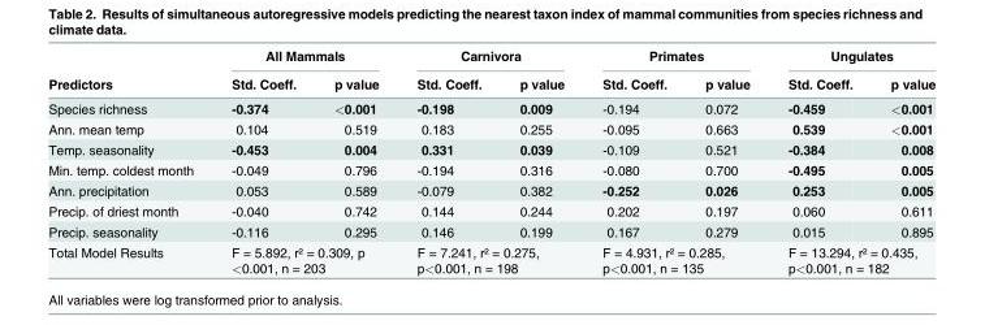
<table><thead><tr><td rowspan="2">Predictors</td><td colspan="2">All Mammals</td><td colspan="2">Carnivora</td><td colspan="2">Primates</td><td colspan="2">Ungulates</td></tr><tr><td>Std. Coeff.</td><td>p value</td><td>Std. Coeff.</td><td>p value</td><td>Std. Coeff.</td><td>p value</td><td>Std. Coeff.</td><td>p value</td></tr></thead><tbody><tr><td>Species richness</td><td>-0.374</td><td>&lt;0.001</td><td>-0.198</td><td>0.009</td><td>-0.194</td><td>0.072</td><td>-0.459</td><td>&lt;0.001</td></tr><tr><td>Ann. mean temp</td><td>0.104</td><td>0.519</td><td>0.183</td><td>0.255</td><td>-0.095</td><td>0.663</td><td>0.539</td><td>&lt;0.001</td></tr><tr><td>Temp. seasonality</td><td>-0.453</td><td>0.004</td><td>0.331</td><td>0.039</td><td>-0.109</td><td>0.521</td><td>-0.384</td><td>0.008</td></tr><tr><td>Min. temp. coldest month</td><td>-0.049</td><td>0.796</td><td>-0.194</td><td>0.316</td><td>-0.080</td><td>0.700</td><td>-0.495</td><td>0.005</td></tr><tr><td>Ann. precipitation</td><td>0.053</td><td>0.589</td><td>-0.079</td><td>0.382</td><td>-0.252</td><td>0.026</td><td>0.253</td><td>0.005</td></tr><tr><td>Precip. of driest month</td><td>-0.040</td><td>0.742</td><td>0.144</td><td>0.244</td><td>0.202</td><td>0.197</td><td>0.060</td><td>0.611</td></tr><tr><td>Precip. seasonality</td><td>-0.116</td><td>0.295</td><td>0.146</td><td>0.199</td><td>0.167</td><td>0.279</td><td>0.015</td><td>0.895</td></tr><tr><td>Total Model Results</td><td colspan="2">F = 5.892, r² = 0.309, p &lt;0.001, n = 203</td><td colspan="2">F = 7.241, r² = 0.275, p&lt;0.001, n = 198</td><td colspan="2">F = 4.931, r² = 0.285, p&lt;0.001, n = 135</td><td colspan="2">F = 13.294, r² = 0.435, p&lt;0.001, n = 182</td></tr></tbody></table>